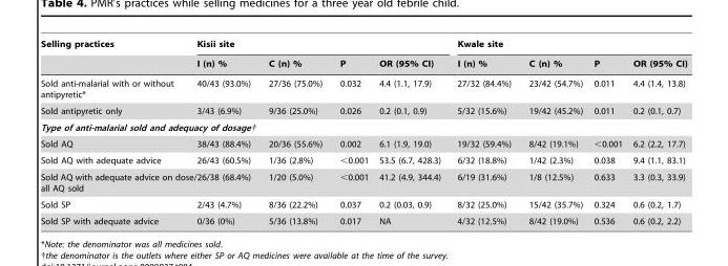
<table><thead><tr><td rowspan="2">Selling practices</td><td colspan="4">Kisii site</td><td colspan="4">Kwale site</td></tr><tr><td>I (n) %</td><td>C (n) %</td><td>P</td><td>OR (95% CI)</td><td>I (n) %</td><td>C (n) %</td><td>P</td><td>OR (95% CI)</td></tr></thead><tbody><tr><td>Sold anti-malarial with or without antipyretic*</td><td>40/43 (93.0%)</td><td>27/36 (75.0%)</td><td>0.032</td><td>4.4 (1.1, 17.9)</td><td>27/32 (84.4%)</td><td>23/42 (54.7%)</td><td>0.011</td><td>4.4 (1.4, 13.8)</td></tr><tr><td>Sold antipyretic only</td><td>3/43 (6.9%)</td><td>9/36 (25.0%)</td><td>0.026</td><td>0.2 (0.1, 0.9)</td><td>5/32 (15.6%)</td><td>19/42 (45.2%)</td><td>0.011</td><td>0.2 (0.1, 0.7)</td></tr><tr><td colspan="9">Type of anti-malarial sold and adequacy of dosage†</td></tr><tr><td>Sold AQ</td><td>38/43 (88.4%)</td><td>20/36 (55.6%)</td><td>0.002</td><td>6.1 (1.9, 19.0)</td><td>19/32 (59.4%)</td><td>8/42 (19.1%)</td><td>&lt;0.001</td><td>6.2 (2.2, 17.7)</td></tr><tr><td>Sold AQ with adequate advice</td><td>26/43 (60.5%)</td><td>1/36 (2.8%)</td><td>&lt;0.001</td><td>53.5 (6.7, 428.3)</td><td>6/32 (18.8%)</td><td>1/42 (2.3%)</td><td>0.038</td><td>9.4 (1.1, 83.1)</td></tr><tr><td>Sold AQ with adequate advice on dose/ all AQ sold</td><td>26/38 (68.4%)</td><td>1/20 (5.0%)</td><td>&lt;0.001</td><td>41.2 (4.9, 344.4)</td><td>6/19 (31.6%)</td><td>1/8 (12.5%)</td><td>0.633</td><td>3.3 (0.3, 33.9)</td></tr><tr><td>Sold SP</td><td>2/43 (4.7%)</td><td>8/36 (22.2%)</td><td>0.037</td><td>0.2 (0.03, 0.9)</td><td>8/32 (25.0%)</td><td>15/42 (35.7%)</td><td>0.324</td><td>0.6 (0.2, 1.7)</td></tr><tr><td>Sold SP with adequate advice</td><td>0/36 (0%)</td><td>5/36 (13.8%)</td><td>0.017</td><td>NA</td><td>4/32 (12.5%)</td><td>8/42 (19.0%)</td><td>0.536</td><td>0.6 (0.2, 2.2)</td></tr></tbody></table>